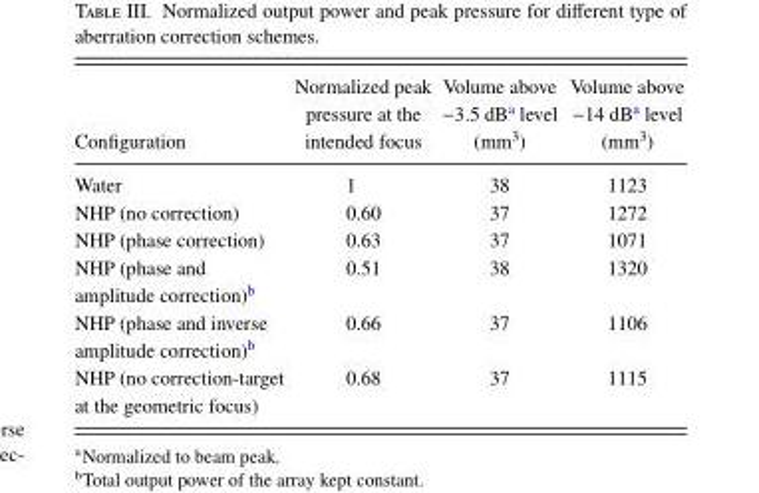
<table><thead><tr><td>Configuration</td><td>Normalized peak pressure at the intended focus</td><td>Volume above −3.5 dB<sup>a</sup> level (mm<sup>3</sup>)</td><td>Volume above −14 dB<sup>a</sup> level (mm<sup>3</sup>)</td></tr></thead><tbody><tr><td>Water</td><td>1</td><td>38</td><td>1123</td></tr><tr><td>NHP (no correction)</td><td>0.60</td><td>37</td><td>1272</td></tr><tr><td>NHP (phase correction)</td><td>0.63</td><td>37</td><td>1071</td></tr><tr><td>NHP (phase and amplitude correction)<sup>b</sup></td><td>0.51</td><td>38</td><td>1320</td></tr><tr><td>NHP (phase and inverse amplitude correction)<sup>b</sup></td><td>0.66</td><td>37</td><td>1106</td></tr><tr><td>NHP (no correction-target at the geometric focus)</td><td>0.68</td><td>37</td><td>1115</td></tr></tbody></table>